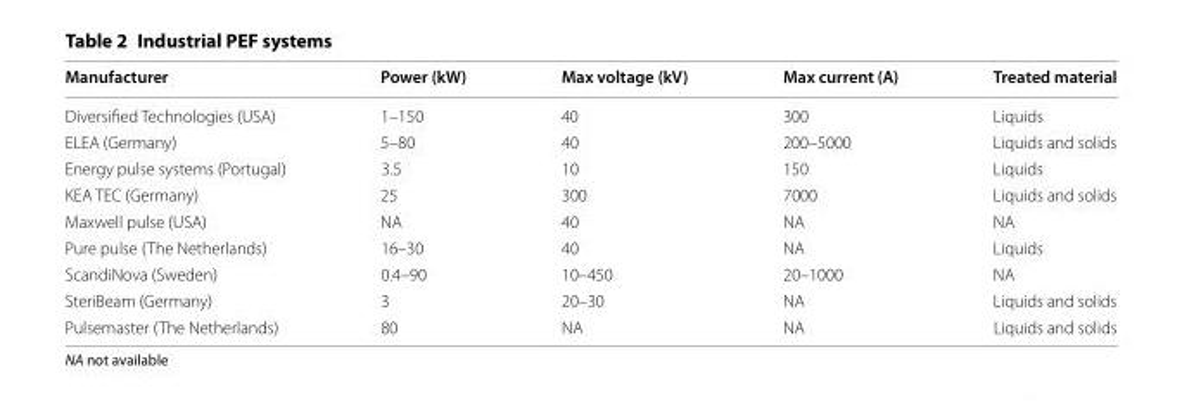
<table><thead><tr><td>Manufacturer</td><td>Power (kW)</td><td>Max voltage (kV)</td><td>Max current (A)</td><td>Treated material</td></tr></thead><tbody><tr><td>Diversified Technologies (USA)</td><td>1–150</td><td>40</td><td>300</td><td>Liquids</td></tr><tr><td>ELEA (Germany)</td><td>5–80</td><td>40</td><td>200–5000</td><td>Liquids and solids</td></tr><tr><td>Energy pulse systems (Portugal)</td><td>3.5</td><td>10</td><td>150</td><td>Liquids</td></tr><tr><td>KEA TEC (Germany)</td><td>25</td><td>300</td><td>7000</td><td>Liquids and solids</td></tr><tr><td>Maxwell pulse (USA)</td><td>NA</td><td>40</td><td>NA</td><td>NA</td></tr><tr><td>Pure pulse (The Netherlands)</td><td>16–30</td><td>40</td><td>NA</td><td>Liquids</td></tr><tr><td>ScandiNova (Sweden)</td><td>0.4–90</td><td>10–450</td><td>20–1000</td><td>NA</td></tr><tr><td>SteriBeam (Germany)</td><td>3</td><td>20–30</td><td>NA</td><td>Liquids and solids</td></tr><tr><td>Pulsemaster (The Netherlands)</td><td>80</td><td>NA</td><td>NA</td><td>Liquids and solids</td></tr></tbody></table>